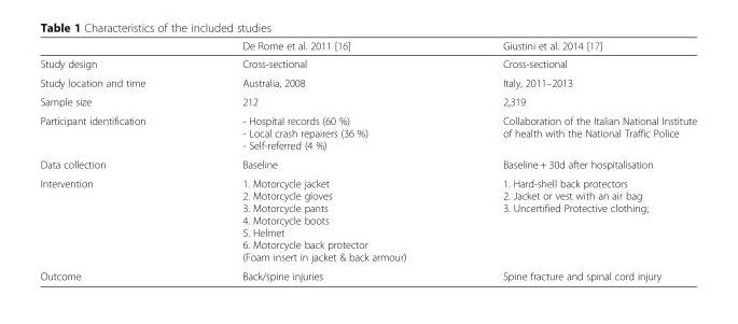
<table><thead><tr><td></td><td>De Rome et al. 2011 [16]</td><td>Giustini et al. 2014 [17]</td></tr></thead><tbody><tr><td>Study design</td><td>Cross-sectional</td><td>Cross-sectional</td></tr><tr><td>Study location and time</td><td>Australia, 2008</td><td>Italy, 2011–2013</td></tr><tr><td>Sample size</td><td>212</td><td>2,319</td></tr><tr><td>Participant identification</td><td>- Hospital records (60 %) - Local crash repairers (36 %) - Self-referred (4 %)</td><td>Collaboration of the Italian National Institute of health with the National Traffic Police</td></tr><tr><td>Data collection</td><td>Baseline</td><td>Baseline + 30d after hospitalisation</td></tr><tr><td>Intervention</td><td>1. Motorcycle jacket 2. Motorcycle gloves 3. Motorcycle pants 4. Motorcycle boots 5. Helmet 6. Motorcycle back protector (Foam insert in jacket &amp; back armour)</td><td>1. Hard-shell back protectors 2. Jacket or vest with an air bag 3. Uncertified Protective clothing;</td></tr><tr><td>Outcome</td><td>Back/spine injuries</td><td>Spine fracture and spinal cord injury</td></tr></tbody></table>